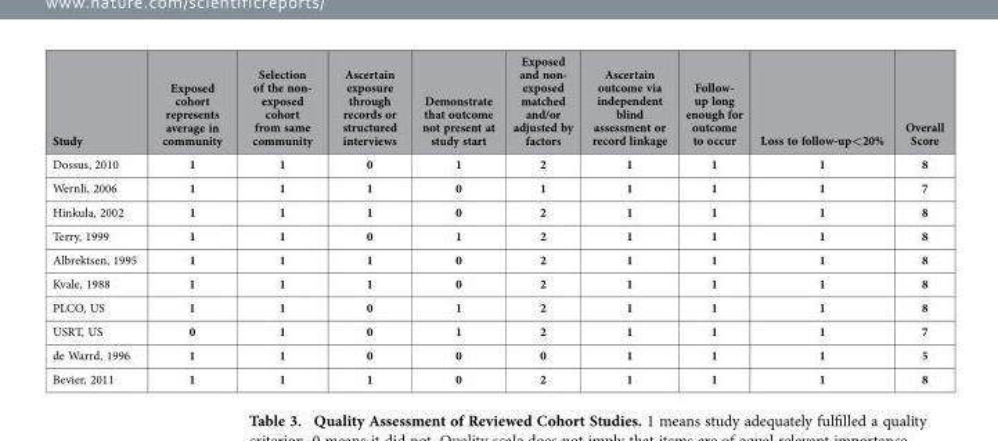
<table><thead><tr><td>Study</td><td>Exposed cohort represents average in community</td><td>Selection of the non- exposed cohort from same community</td><td>Ascertain exposure through records or structured interviews</td><td>Demonstrate that outcome not present at study start</td><td>Exposed and non- exposed matched and/or adjusted by factors</td><td>Ascertain outcome via independent blind assessment or record linkage</td><td>Follow- up long enough for outcome to occur</td><td>Loss to follow-up&lt;20%</td><td>Overall Score</td></tr></thead><tbody><tr><td>Dossus, 2010</td><td>1</td><td>1</td><td>0</td><td>1</td><td>2</td><td>1</td><td>1</td><td>1</td><td>8</td></tr><tr><td>Wernli, 2006</td><td>1</td><td>1</td><td>1</td><td>0</td><td>1</td><td>1</td><td>1</td><td>1</td><td>7</td></tr><tr><td>Hinkula, 2002</td><td>1</td><td>1</td><td>1</td><td>0</td><td>2</td><td>1</td><td>1</td><td>1</td><td>8</td></tr><tr><td>Terry, 1999</td><td>1</td><td>1</td><td>0</td><td>1</td><td>2</td><td>1</td><td>1</td><td>1</td><td>8</td></tr><tr><td>Albrektsen, 1995</td><td>1</td><td>1</td><td>1</td><td>0</td><td>2</td><td>1</td><td>1</td><td>1</td><td>8</td></tr><tr><td>Kvale, 1988</td><td>1</td><td>1</td><td>1</td><td>0</td><td>2</td><td>1</td><td>1</td><td>1</td><td>8</td></tr><tr><td>PLCO, US</td><td>1</td><td>1</td><td>0</td><td>1</td><td>2</td><td>1</td><td>1</td><td>1</td><td>8</td></tr><tr><td>USRT, US</td><td>0</td><td>1</td><td>0</td><td>1</td><td>2</td><td>1</td><td>1</td><td>1</td><td>7</td></tr><tr><td>de Warrd, 1996</td><td>1</td><td>1</td><td>0</td><td>0</td><td>0</td><td>1</td><td>1</td><td>1</td><td>5</td></tr><tr><td>Bevier, 2011</td><td>1</td><td>1</td><td>1</td><td>0</td><td>2</td><td>1</td><td>1</td><td>1</td><td>8</td></tr></tbody></table>